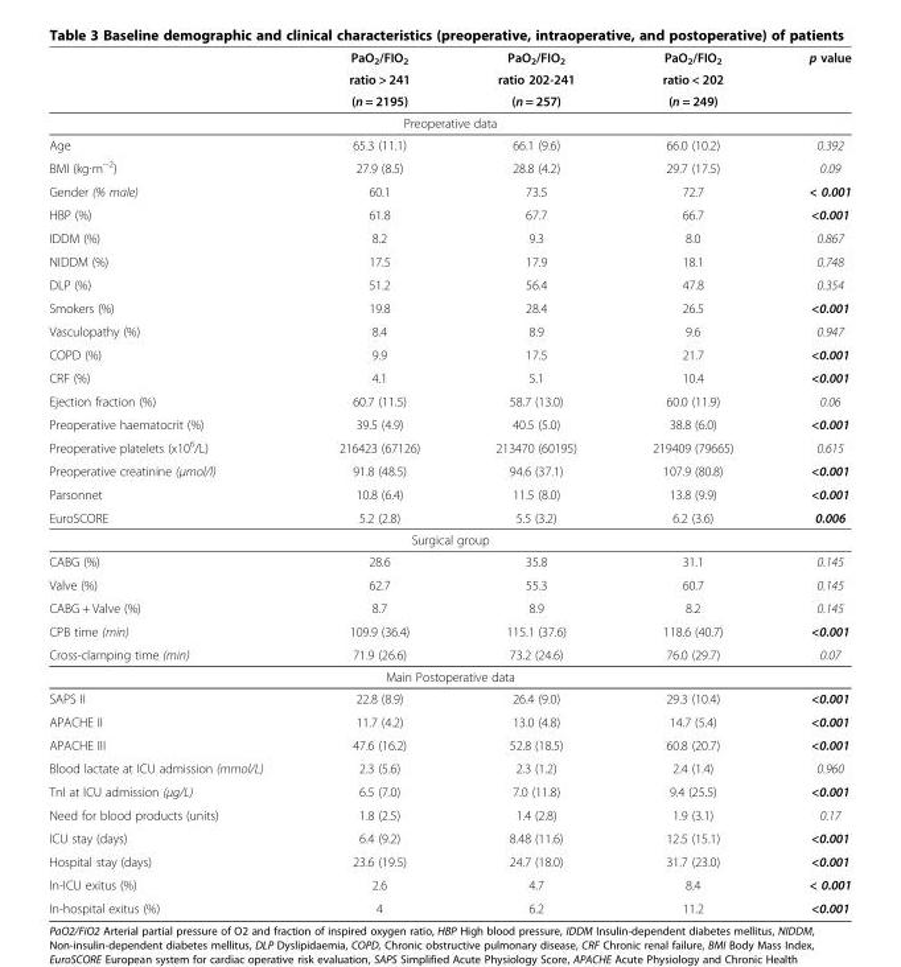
<table><thead><tr><td rowspan="3"></td><td rowspan="3">PaO<sub>2</sub>/FIO<sub>2</sub> ratio &gt; 241 (n = 2195)</td><td rowspan="3">PaO<sub>2</sub>/FIO<sub>2</sub> ratio 202-241 (n = 257)</td><td rowspan="3">PaO<sub>2</sub>/FIO<sub>2</sub> ratio &lt; 202 (n = 249)</td><td rowspan="3">p value</td></tr><tr></tr><tr></tr></thead><tbody><tr><td colspan="5">Preoperative data</td></tr><tr><td>Age</td><td>65.3 (11.1)</td><td>66.1 (9.6)</td><td>66.0 (10.2)</td><td>0.392</td></tr><tr><td>BMI (kg∙m<sup>−2</sup>)</td><td>27.9 (8.5)</td><td>28.8 (4.2)</td><td>29.7 (17.5)</td><td>0.09</td></tr><tr><td>Gender (% male)</td><td>60.1</td><td>73.5</td><td>72.7</td><td>&lt; 0.001</td></tr><tr><td>HBP (%)</td><td>61.8</td><td>67.7</td><td>66.7</td><td>&lt;0.001</td></tr><tr><td>IDDM (%)</td><td>8.2</td><td>9.3</td><td>8.0</td><td>0.867</td></tr><tr><td>NIDDM (%)</td><td>17.5</td><td>17.9</td><td>18.1</td><td>0.748</td></tr><tr><td>DLP (%)</td><td>51.2</td><td>56.4</td><td>47.8</td><td>0.354</td></tr><tr><td>Smokers (%)</td><td>19.8</td><td>28.4</td><td>26.5</td><td>&lt;0.001</td></tr><tr><td>Vasculopathy (%)</td><td>8.4</td><td>8.9</td><td>9.6</td><td>0.947</td></tr><tr><td>COPD (%)</td><td>9.9</td><td>17.5</td><td>21.7</td><td>&lt;0.001</td></tr><tr><td>CRF (%)</td><td>4.1</td><td>5.1</td><td>10.4</td><td>&lt;0.001</td></tr><tr><td>Ejection fraction (%)</td><td>60.7 (11.5)</td><td>58.7 (13.0)</td><td>60.0 (11.9)</td><td>0.06</td></tr><tr><td>Preoperative haematocrit (%)</td><td>39.5 (4.9)</td><td>40.5 (5.0)</td><td>38.8 (6.0)</td><td>&lt;0.001</td></tr><tr><td>Preoperative platelets (x10<sup>6</sup>/L)</td><td>216423 (67126)</td><td>213470 (60195)</td><td>219409 (79665)</td><td>0.615</td></tr><tr><td>Preoperative creatinine (μmol/l)</td><td>91.8 (48.5)</td><td>94.6 (37.1)</td><td>107.9 (80.8)</td><td>&lt;0.001</td></tr><tr><td>Parsonnet</td><td>10.8 (6.4)</td><td>11.5 (8.0)</td><td>13.8 (9.9)</td><td>&lt;0.001</td></tr><tr><td>EuroSCORE</td><td>5.2 (2.8)</td><td>5.5 (3.2)</td><td>6.2 (3.6)</td><td>0.006</td></tr><tr><td colspan="5">Surgical group</td></tr><tr><td>CABG (%)</td><td>28.6</td><td>35.8</td><td>31.1</td><td>0.145</td></tr><tr><td>Valve (%)</td><td>62.7</td><td>55.3</td><td>60.7</td><td>0.145</td></tr><tr><td>CABG + Valve (%)</td><td>8.7</td><td>8.9</td><td>8.2</td><td>0.145</td></tr><tr><td>CPB time (min)</td><td>109.9 (36.4)</td><td>115.1 (37.6)</td><td>118.6 (40.7)</td><td>&lt;0.001</td></tr><tr><td>Cross-clamping time (min)</td><td>71.9 (26.6)</td><td>73.2 (24.6)</td><td>76.0 (29.7)</td><td>0.07</td></tr><tr><td colspan="5">Main Postoperative data</td></tr><tr><td>SAPS II</td><td>22.8 (8.9)</td><td>26.4 (9.0)</td><td>29.3 (10.4)</td><td>&lt;0.001</td></tr><tr><td>APACHE II</td><td>11.7 (4.2)</td><td>13.0 (4.8)</td><td>14.7 (5.4)</td><td>&lt;0.001</td></tr><tr><td>APACHE III</td><td>47.6 (16.2)</td><td>52.8 (18.5)</td><td>60.8 (20.7)</td><td>&lt;0.001</td></tr><tr><td>Blood lactate at ICU admission (mmol/L)</td><td>2.3 (5.6)</td><td>2.3 (1.2)</td><td>2.4 (1.4)</td><td>0.960</td></tr><tr><td>TnI at ICU admission (μg/L)</td><td>6.5 (7.0)</td><td>7.0 (11.8)</td><td>9.4 (25.5)</td><td>&lt;0.001</td></tr><tr><td>Need for blood products (units)</td><td>1.8 (2.5)</td><td>1.4 (2.8)</td><td>1.9 (3.1)</td><td>0.17</td></tr><tr><td>ICU stay (days)</td><td>6.4 (9.2)</td><td>8.48 (11.6)</td><td>12.5 (15.1)</td><td>&lt;0.001</td></tr><tr><td>Hospital stay (days)</td><td>23.6 (19.5)</td><td>24.7 (18.0)</td><td>31.7 (23.0)</td><td>&lt;0.001</td></tr><tr><td>In-ICU exitus (%)</td><td>2.6</td><td>4.7</td><td>8.4</td><td>&lt; 0.001</td></tr><tr><td>In-hospital exitus (%)</td><td>4</td><td>6.2</td><td>11.2</td><td>&lt;0.001</td></tr></tbody></table>